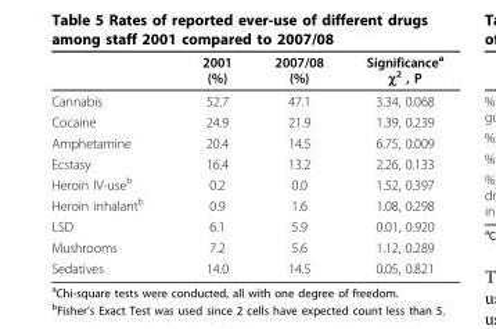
<table><thead><tr><td></td><td>2001 (%)</td><td>2007/08 (%)</td><td>Significance<sup>a</sup> χ<sup>2</sup> , P</td></tr></thead><tbody><tr><td>Cannabis</td><td>52.7</td><td>47.1</td><td>3.34, 0.068</td></tr><tr><td>Cocaine</td><td>24.9</td><td>21.9</td><td>1.39, 0.239</td></tr><tr><td>Amphetamine</td><td>20.4</td><td>14.5</td><td>6.75, 0.009</td></tr><tr><td>Ecstasy</td><td>16.4</td><td>13.2</td><td>2.26, 0.133</td></tr><tr><td>Heroin IV-use<sup>b</sup></td><td>0.2</td><td>0.0</td><td>1.52, 0.397</td></tr><tr><td>Heroin inhalant<sup>b</sup></td><td>0.9</td><td>1.6</td><td>1.08, 0.298</td></tr><tr><td>LSD</td><td>6.1</td><td>5.9</td><td>0.01, 0.920</td></tr><tr><td>Mushrooms</td><td>7.2</td><td>5.6</td><td>1.12, 0.289</td></tr><tr><td>Sedatives</td><td>14.0</td><td>14.5</td><td>0.05, 0.821</td></tr></tbody></table>